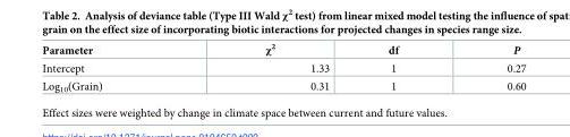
<table><thead><tr><td>Parameter</td><td>χ<sup>2</sup></td><td>df</td><td>P</td></tr></thead><tbody><tr><td>Intercept</td><td>1.33</td><td>1</td><td>0.27</td></tr><tr><td>Log<sub>10</sub>(Grain)</td><td>0.31</td><td>1</td><td>0.60</td></tr></tbody></table>